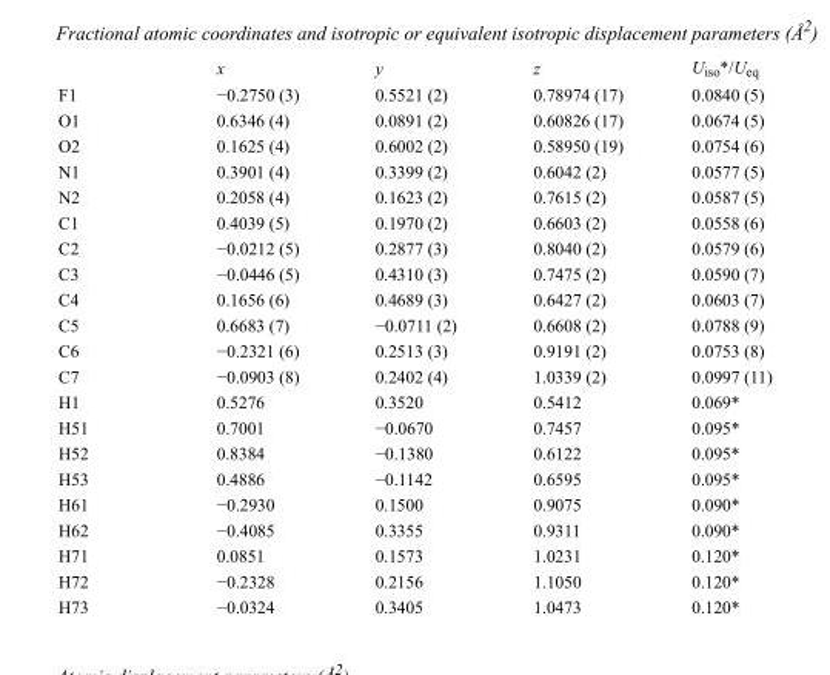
<table><thead><tr><td></td><td>x</td><td>y</td><td>z</td><td>U<sub>iso</sub>*/U<sub>eq</sub></td></tr></thead><tbody><tr><td>F1</td><td>−0.2750 (3)</td><td>0.5521 (2)</td><td>0.78974 (17)</td><td>0.0840 (5)</td></tr><tr><td>O1</td><td>0.6346 (4)</td><td>0.0891 (2)</td><td>0.60826 (17)</td><td>0.0674 (5)</td></tr><tr><td>O2</td><td>0.1625 (4)</td><td>0.6002 (2)</td><td>0.58950 (19)</td><td>0.0754 (6)</td></tr><tr><td>N1</td><td>0.3901 (4)</td><td>0.3399 (2)</td><td>0.6042 (2)</td><td>0.0577 (5)</td></tr><tr><td>N2</td><td>0.2058 (4)</td><td>0.1623 (2)</td><td>0.7615 (2)</td><td>0.0587 (5)</td></tr><tr><td>C1</td><td>0.4039 (5)</td><td>0.1970 (2)</td><td>0.6603 (2)</td><td>0.0558 (6)</td></tr><tr><td>C2</td><td>−0.0212 (5)</td><td>0.2877 (3)</td><td>0.8040 (2)</td><td>0.0579 (6)</td></tr><tr><td>C3</td><td>−0.0446 (5)</td><td>0.4310 (3)</td><td>0.7475 (2)</td><td>0.0590 (7)</td></tr><tr><td>C4</td><td>0.1656 (6)</td><td>0.4689 (3)</td><td>0.6427 (2)</td><td>0.0603 (7)</td></tr><tr><td>C5</td><td>0.6683 (7)</td><td>−0.0711 (2)</td><td>0.6608 (2)</td><td>0.0788 (9)</td></tr><tr><td>C6</td><td>−0.2321 (6)</td><td>0.2513 (3)</td><td>0.9191 (2)</td><td>0.0753 (8)</td></tr><tr><td>C7</td><td>−0.0903 (8)</td><td>0.2402 (4)</td><td>1.0339 (2)</td><td>0.0997 (11)</td></tr><tr><td>H1</td><td>0.5276</td><td>0.3520</td><td>0.5412</td><td>0.069*</td></tr><tr><td>H51</td><td>0.7001</td><td>−0.0670</td><td>0.7457</td><td>0.095*</td></tr><tr><td>H52</td><td>0.8384</td><td>−0.1380</td><td>0.6122</td><td>0.095*</td></tr><tr><td>H53</td><td>0.4886</td><td>−0.1142</td><td>0.6595</td><td>0.095*</td></tr><tr><td>H61</td><td>−0.2930</td><td>0.1500</td><td>0.9075</td><td>0.090*</td></tr><tr><td>H62</td><td>−0.4085</td><td>0.3355</td><td>0.9311</td><td>0.090*</td></tr><tr><td>H71</td><td>0.0851</td><td>0.1573</td><td>1.0231</td><td>0.120*</td></tr><tr><td>H72</td><td>−0.2328</td><td>0.2156</td><td>1.1050</td><td>0.120*</td></tr><tr><td>H73</td><td>−0.0324</td><td>0.3405</td><td>1.0473</td><td>0.120*</td></tr></tbody></table>